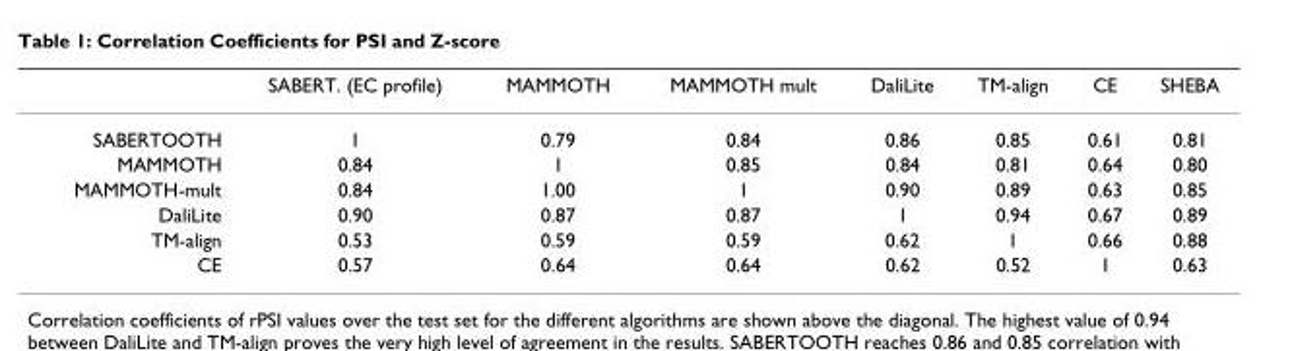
<table><thead><tr><td></td><td>SABERT. (EC profile)</td><td>MAMMOTH</td><td>MAMMOTH mult</td><td>DaliLite</td><td>TM-align</td><td>CE</td><td>SHEBA</td></tr></thead><tbody><tr><td>SABERTOOTH</td><td>1</td><td>0.79</td><td>0.84</td><td>0.86</td><td>0.85</td><td>0.61</td><td>0.81</td></tr><tr><td>MAMMOTH</td><td>0.84</td><td>1</td><td>0.85</td><td>0.84</td><td>0.81</td><td>0.64</td><td>0.80</td></tr><tr><td>MAMMOTH-mult</td><td>0.84</td><td>1.00</td><td>1</td><td>0.90</td><td>0.89</td><td>0.63</td><td>0.85</td></tr><tr><td>DaliLite</td><td>0.90</td><td>0.87</td><td>0.87</td><td>1</td><td>0.94</td><td>0.67</td><td>0.89</td></tr><tr><td>TM-align</td><td>0.53</td><td>0.59</td><td>0.59</td><td>0.62</td><td>1</td><td>0.66</td><td>0.88</td></tr><tr><td>CE</td><td>0.57</td><td>0.64</td><td>0.64</td><td>0.62</td><td>0.52</td><td>1</td><td>0.63</td></tr></tbody></table>